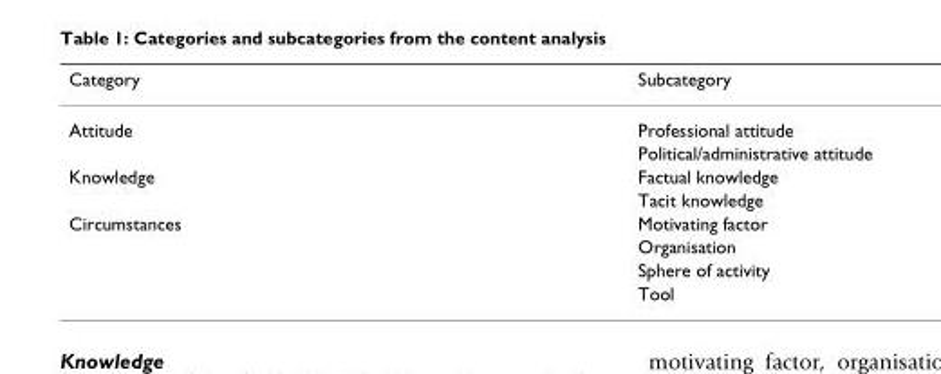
<table><thead><tr><td>Category</td><td>Subcategory</td></tr></thead><tbody><tr><td rowspan="2">Attitude</td><td>Professional attitude</td></tr><tr><td>Political/administrative attitude</td></tr><tr><td rowspan="2">Knowledge</td><td>Factual knowledge</td></tr><tr><td>Tacit knowledge</td></tr><tr><td rowspan="4">Circumstances</td><td>Motivating factor</td></tr><tr><td>Organisation</td></tr><tr><td>Sphere of activity</td></tr><tr><td>Tool</td></tr></tbody></table>